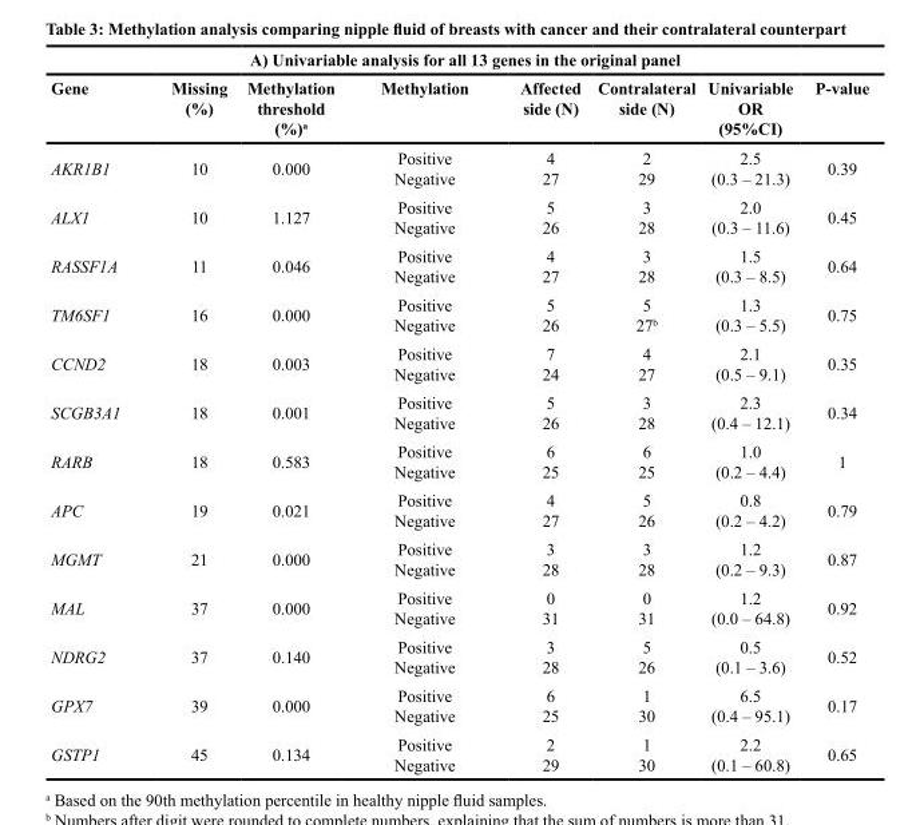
<table><thead><tr><td colspan="8">A) Univariable analysis for all 13 genes in the original panel</td></tr><tr><td>Gene</td><td>Missing (%)</td><td>Methylation threshold (%)<sup>a</sup></td><td>Methylation</td><td>Affected side (N)</td><td>Contralateral side (N)</td><td>Univariable OR (95%CI)</td><td>P-value</td></tr></thead><tbody><tr><td>AKR1B1</td><td>10</td><td>0.000</td><td>Positive Negative</td><td>4 27</td><td>2 29</td><td>2.5 (0.3 – 21.3)</td><td>0.39</td></tr><tr><td>ALX1</td><td>10</td><td>1.127</td><td>Positive Negative</td><td>5 26</td><td>3 28</td><td>2.0 (0.3 – 11.6)</td><td>0.45</td></tr><tr><td>RASSF1A</td><td>11</td><td>0.046</td><td>Positive Negative</td><td>4 27</td><td>3 28</td><td>1.5 (0.3 – 8.5)</td><td>0.64</td></tr><tr><td>TM6SF1</td><td>16</td><td>0.000</td><td>Positive Negative</td><td>5 26</td><td>5 27<sup>b</sup></td><td>1.3 (0.3 – 5.5)</td><td>0.75</td></tr><tr><td>CCND2</td><td>18</td><td>0.003</td><td>Positive Negative</td><td>7 24</td><td>4 27</td><td>2.1 (0.5 – 9.1)</td><td>0.35</td></tr><tr><td>SCGB3A1</td><td>18</td><td>0.001</td><td>Positive Negative</td><td>5 26</td><td>3 28</td><td>2.3 (0.4 – 12.1)</td><td>0.34</td></tr><tr><td>RARB</td><td>18</td><td>0.583</td><td>Positive Negative</td><td>6 25</td><td>6 25</td><td>1.0 (0.2 – 4.4)</td><td>1</td></tr><tr><td>APC</td><td>19</td><td>0.021</td><td>Positive Negative</td><td>4 27</td><td>5 26</td><td>0.8 (0.2 – 4.2)</td><td>0.79</td></tr><tr><td>MGMT</td><td>21</td><td>0.000</td><td>Positive Negative</td><td>3 28</td><td>3 28</td><td>1.2 (0.2 – 9.3)</td><td>0.87</td></tr><tr><td>MAL</td><td>37</td><td>0.000</td><td>Positive Negative</td><td>0 31</td><td>0 31</td><td>1.2 (0.0 – 64.8)</td><td>0.92</td></tr><tr><td>NDRG2</td><td>37</td><td>0.140</td><td>Positive Negative</td><td>3 28</td><td>5 26</td><td>0.5 (0.1 – 3.6)</td><td>0.52</td></tr><tr><td>GPX7</td><td>39</td><td>0.000</td><td>Positive Negative</td><td>6 25</td><td>1 30</td><td>6.5 (0.4 – 95.1)</td><td>0.17</td></tr><tr><td>GSTP1</td><td>45</td><td>0.134</td><td>Positive Negative</td><td>2 29</td><td>1 30</td><td>2.2 (0.1 – 60.8)</td><td>0.65</td></tr></tbody></table>